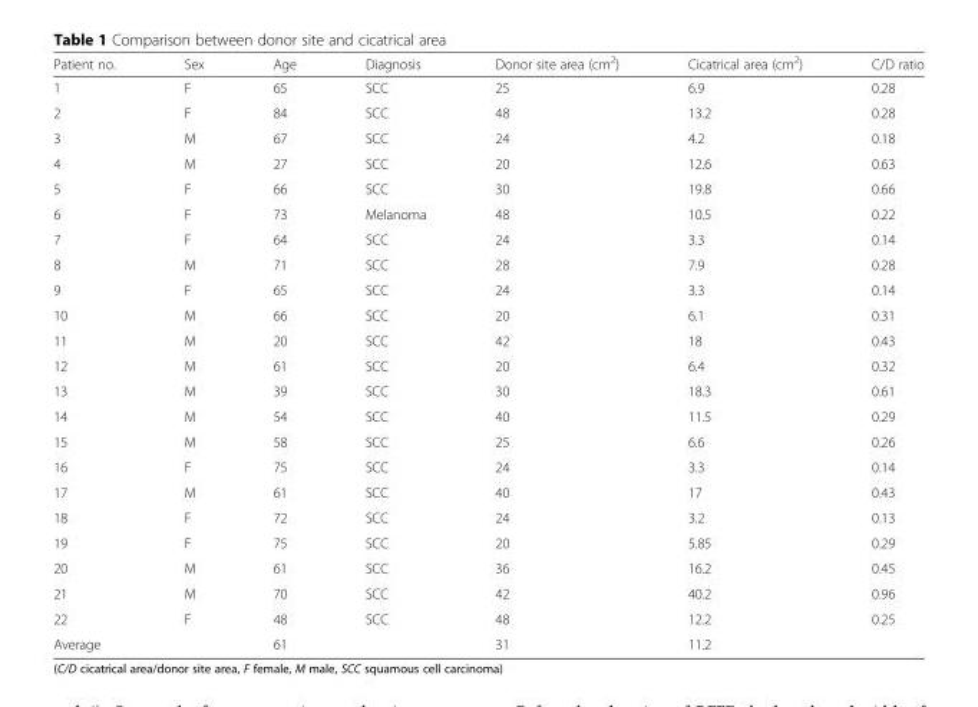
<table><thead><tr><td>Patient no.</td><td>Sex</td><td>Age</td><td>Diagnosis</td><td>Donor site area (cm<sup>2</sup>)</td><td>Cicatrical area (cm<sup>2</sup>)</td><td>C/D ratio</td></tr></thead><tbody><tr><td>1</td><td>F</td><td>65</td><td>SCC</td><td>25</td><td>6.9</td><td>0.28</td></tr><tr><td>2</td><td>F</td><td>84</td><td>SCC</td><td>48</td><td>13.2</td><td>0.28</td></tr><tr><td>3</td><td>M</td><td>67</td><td>SCC</td><td>24</td><td>4.2</td><td>0.18</td></tr><tr><td>4</td><td>M</td><td>27</td><td>SCC</td><td>20</td><td>12.6</td><td>0.63</td></tr><tr><td>5</td><td>F</td><td>66</td><td>SCC</td><td>30</td><td>19.8</td><td>0.66</td></tr><tr><td>6</td><td>F</td><td>73</td><td>Melanoma</td><td>48</td><td>10.5</td><td>0.22</td></tr><tr><td>7</td><td>F</td><td>64</td><td>SCC</td><td>24</td><td>3.3</td><td>0.14</td></tr><tr><td>8</td><td>M</td><td>71</td><td>SCC</td><td>28</td><td>7.9</td><td>0.28</td></tr><tr><td>9</td><td>F</td><td>65</td><td>SCC</td><td>24</td><td>3.3</td><td>0.14</td></tr><tr><td>10</td><td>M</td><td>66</td><td>SCC</td><td>20</td><td>6.1</td><td>0.31</td></tr><tr><td>11</td><td>M</td><td>20</td><td>SCC</td><td>42</td><td>18</td><td>0.43</td></tr><tr><td>12</td><td>M</td><td>61</td><td>SCC</td><td>20</td><td>6.4</td><td>0.32</td></tr><tr><td>13</td><td>M</td><td>39</td><td>SCC</td><td>30</td><td>18.3</td><td>0.61</td></tr><tr><td>14</td><td>M</td><td>54</td><td>SCC</td><td>40</td><td>11.5</td><td>0.29</td></tr><tr><td>15</td><td>M</td><td>58</td><td>SCC</td><td>25</td><td>6.6</td><td>0.26</td></tr><tr><td>16</td><td>F</td><td>75</td><td>SCC</td><td>24</td><td>3.3</td><td>0.14</td></tr><tr><td>17</td><td>M</td><td>61</td><td>SCC</td><td>40</td><td>17</td><td>0.43</td></tr><tr><td>18</td><td>F</td><td>72</td><td>SCC</td><td>24</td><td>3.2</td><td>0.13</td></tr><tr><td>19</td><td>F</td><td>75</td><td>SCC</td><td>20</td><td>5.85</td><td>0.29</td></tr><tr><td>20</td><td>M</td><td>61</td><td>SCC</td><td>36</td><td>16.2</td><td>0.45</td></tr><tr><td>21</td><td>M</td><td>70</td><td>SCC</td><td>42</td><td>40.2</td><td>0.96</td></tr><tr><td>22</td><td>F</td><td>48</td><td>SCC</td><td>48</td><td>12.2</td><td>0.25</td></tr><tr><td>Average</td><td></td><td>61</td><td></td><td>31</td><td>11.2</td><td></td></tr></tbody></table>